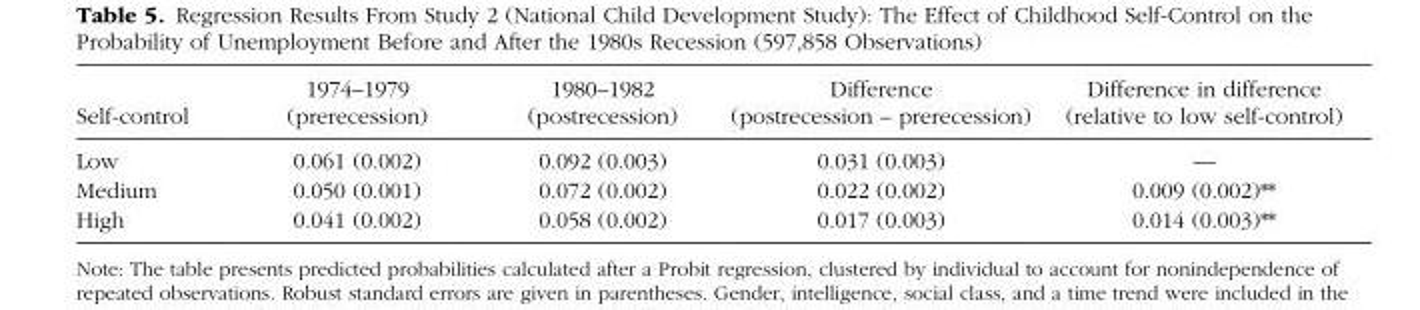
<table><thead><tr><td>Self-control</td><td>1974–1979 (prerecession)</td><td>1980–1982 (postrecession)</td><td>Difference (postrecession – prerecession)</td><td>Difference in difference (relative to low self-control)</td></tr></thead><tbody><tr><td>Low</td><td>0.061 (0.002)</td><td>0.092 (0.003)</td><td>0.031 (0.003)</td><td>—</td></tr><tr><td>Medium</td><td>0.050 (0.001)</td><td>0.072 (0.002)</td><td>0.022 (0.002)</td><td>0.009 (0.002)**</td></tr><tr><td>High</td><td>0.041 (0.002)</td><td>0.058 (0.002)</td><td>0.017 (0.003)</td><td>0.014 (0.003)**</td></tr></tbody></table>